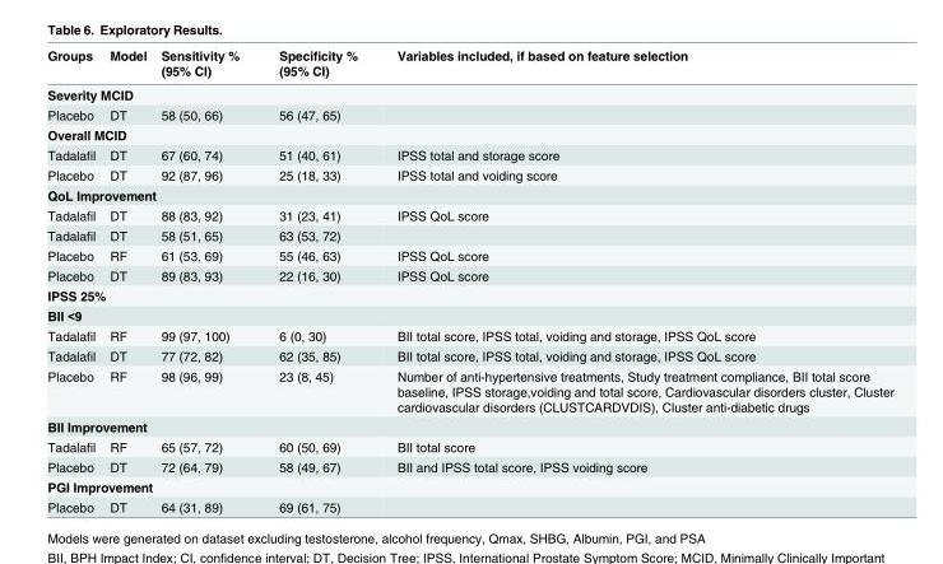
<table><thead><tr><td>Groups</td><td>Model</td><td>Sensitivity % (95% CI)</td><td>Specificity % (95% CI)</td><td>Variables included, if based on feature selection</td></tr></thead><tbody><tr><td colspan="5">Severity MCID</td></tr><tr><td>Placebo</td><td>DT</td><td>58 (50, 66)</td><td>56 (47, 65)</td><td></td></tr><tr><td colspan="5">Overall MCID</td></tr><tr><td>Tadalafil</td><td>DT</td><td>67 (60, 74)</td><td>51 (40, 61)</td><td>IPSS total and storage score</td></tr><tr><td>Placebo</td><td>DT</td><td>92 (87, 96)</td><td>25 (18, 33)</td><td>IPSS total and voiding score</td></tr><tr><td colspan="5">QoL Improvement</td></tr><tr><td>Tadalafil</td><td>DT</td><td>88 (83, 92)</td><td>31 (23, 41)</td><td>IPSS QoL score</td></tr><tr><td>Tadalafil</td><td>DT</td><td>58 (51, 65)</td><td>63 (53, 72)</td><td></td></tr><tr><td>Placebo</td><td>RF</td><td>61 (53, 69)</td><td>55 (46, 63)</td><td>IPSS QoL score</td></tr><tr><td>Placebo</td><td>DT</td><td>89 (83, 93)</td><td>22 (16, 30)</td><td>IPSS QoL score</td></tr><tr><td colspan="5">IPSS 25%</td></tr><tr><td colspan="5">BII &lt;9</td></tr><tr><td>Tadalafil</td><td>RF</td><td>99 (97, 100)</td><td>6 (0, 30)</td><td>BII total score, IPSS total, voiding and storage, IPSS QoL score</td></tr><tr><td>Tadalafil</td><td>DT</td><td>77 (72, 82)</td><td>62 (35, 85)</td><td>BII total score, IPSS total, voiding and storage, IPSS QoL score</td></tr><tr><td>Placebo</td><td>RF</td><td>98 (96, 99)</td><td>23 (8, 45)</td><td>Number of anti-hypertensive treatments, Study treatment compliance, BII total score baseline, IPSS storage,voiding and total score, Cardiovascular disorders cluster, Cluster cardiovascular disorders (CLUSTCARDVDIS), Cluster anti-diabetic drugs</td></tr><tr><td colspan="5">BII Improvement</td></tr><tr><td>Tadalafil</td><td>RF</td><td>65 (57, 72)</td><td>60 (50, 69)</td><td>BII total score</td></tr><tr><td>Placebo</td><td>DT</td><td>72 (64, 79)</td><td>58 (49, 67)</td><td>BII and IPSS total score, IPSS voiding score</td></tr><tr><td colspan="5">PGI Improvement</td></tr><tr><td>Placebo</td><td>DT</td><td>64 (31, 89)</td><td>69 (61, 75)</td><td></td></tr></tbody></table>